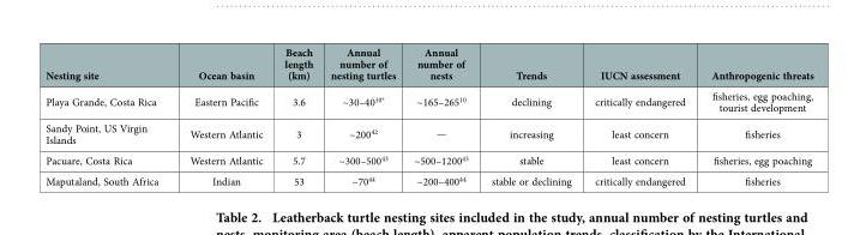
<table><thead><tr><td>Nesting site</td><td>Ocean basin</td><td>Beach length (km)</td><td>Annual number of nesting turtles</td><td>Annual number of nests</td><td>Trends</td><td>IUCN assessment</td><td>Anthropogenic threats</td></tr></thead><tbody><tr><td>Playa Grande, Costa Rica</td><td>Eastern Pacific</td><td>3.6</td><td>~30–40<sup>10</sup>*</td><td>~165–265<sup>10</sup></td><td>declining</td><td>critically endangered</td><td>fisheries, egg poaching, tourist development</td></tr><tr><td>Sandy Point, US Virgin Islands</td><td>Western Atlantic</td><td>3</td><td>~200<sup>42</sup></td><td>—</td><td>increasing</td><td>least concern</td><td>fisheries</td></tr><tr><td>Pacuare, Costa Rica</td><td>Western Atlantic</td><td>5.7</td><td>~300–500<sup>43</sup></td><td>~500–1200<sup>43</sup></td><td>stable</td><td>least concern</td><td>fisheries, egg poaching</td></tr><tr><td>Maputaland, South Africa</td><td>Indian</td><td>53</td><td>~70<sup>44</sup></td><td>~200–400<sup>44</sup></td><td>stable or declining</td><td>critically endangered</td><td>fisheries</td></tr></tbody></table>